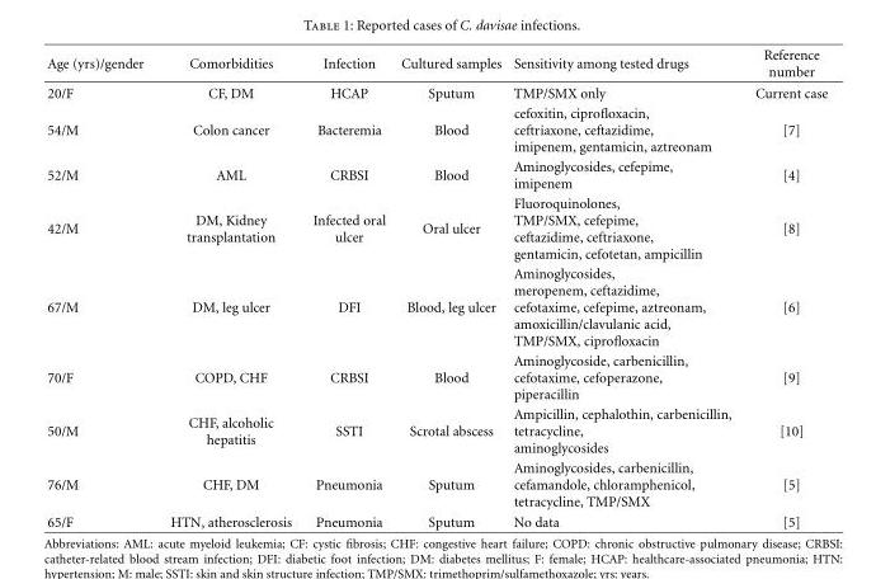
<table><thead><tr><td>Age (yrs)/gender</td><td>Comorbidities</td><td>Infection</td><td>Cultured samples</td><td>Sensitivity among tested drugs</td><td>Reference number</td></tr></thead><tbody><tr><td>20/F</td><td>CF, DM</td><td>HCAP</td><td>Sputum</td><td>TMP/SMX only</td><td>Current case</td></tr><tr><td>54/M</td><td>Colon cancer</td><td>Bacteremia</td><td>Blood</td><td>cefoxitin, ciprofloxacin, ceftriaxone, ceftazidime, imipenem, gentamicin, aztreonam</td><td>[7]</td></tr><tr><td>52/M</td><td>AML</td><td>CRBSI</td><td>Blood</td><td>Aminoglycosides, cefepime, imipenem</td><td>[4]</td></tr><tr><td>42/M</td><td>DM, Kidney transplantation</td><td>Infected oral ulcer</td><td>Oral ulcer</td><td>Fluoroquinolones, TMP/SMX, cefepime, ceftazidime, ceftriaxone, gentamicin, cefotetan, ampicillin</td><td>[8]</td></tr><tr><td>67/M</td><td>DM, leg ulcer</td><td>DFI</td><td>Blood, leg ulcer</td><td>Aminoglycosides, meropenem, ceftazidime, cefotaxime, cefepime, aztreonam, amoxicillin/clavulanic acid, TMP/SMX, ciprofloxacin</td><td>[6]</td></tr><tr><td>70/F</td><td>COPD, CHF</td><td>CRBSI</td><td>Blood</td><td>Aminoglycoside, carbenicillin, cefotaxime, cefoperazone, piperacillin</td><td>[9]</td></tr><tr><td>50/M</td><td>CHF, alcoholic hepatitis</td><td>SSTI</td><td>Scrotal abscess</td><td>Ampicillin, cephalothin, carbenicillin, tetracycline, aminoglycosides</td><td>[10]</td></tr><tr><td>76/M</td><td>CHF, DM</td><td>Pneumonia</td><td>Sputum</td><td>Aminoglycosides, carbenicillin, cefamandole, chloramphenicol, tetracycline, TMP/SMX</td><td>[5]</td></tr><tr><td>65/F</td><td>HTN, atherosclerosis</td><td>Pneumonia</td><td>Sputum</td><td>No data</td><td>[5]</td></tr></tbody></table>